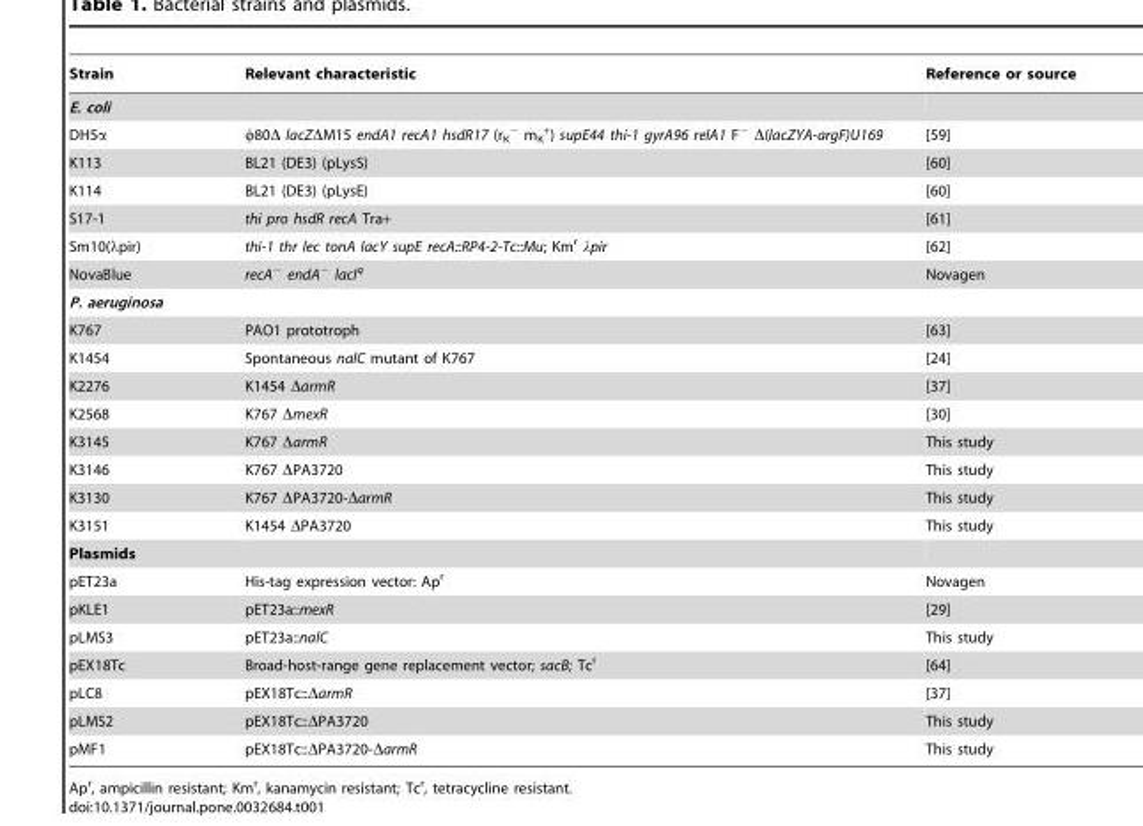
<table><thead><tr><td>Strain</td><td>Relevant characteristic</td><td>Reference or source</td></tr></thead><tbody><tr><td colspan="3">E. coli</td></tr><tr><td>DH5α</td><td>φ80Δ lacZΔM15 endA1 recA1 hsdR17 (r<sub>K</sub> <sup>−</sup> m<sub>K</sub> <sup>+</sup>) supE44 thi-1 gyrA96 relA1 F<sup>−</sup> Δ(lacZYA-argF)U169</td><td>[59]</td></tr><tr><td>K113</td><td>BL21 (DE3) (pLysS)</td><td>[60]</td></tr><tr><td>K114</td><td>BL21 (DE3) (pLysE)</td><td>[60]</td></tr><tr><td>S17-1</td><td>thi pro hsdR recA Tra+</td><td>[61]</td></tr><tr><td>Sm10(λpir)</td><td>thi-1 thr lec tonA lacY supE recA::RP4-2-Tc::Mu; Km<sup>r</sup> λpir</td><td>[62]</td></tr><tr><td>NovaBlue</td><td>recA<sup>−</sup> endA<sup>−</sup> lacI<sup>q</sup></td><td>Novagen</td></tr><tr><td colspan="3">P. aeruginosa</td></tr><tr><td>K767</td><td>PAO1 prototroph</td><td>[63]</td></tr><tr><td>K1454</td><td>Spontaneous nalC mutant of K767</td><td>[24]</td></tr><tr><td>K2276</td><td>K1454 ΔarmR</td><td>[37]</td></tr><tr><td>K2568</td><td>K767 ΔmexR</td><td>[30]</td></tr><tr><td>K3145</td><td>K767 ΔarmR</td><td>This study</td></tr><tr><td>K3146</td><td>K767 ΔPA3720</td><td>This study</td></tr><tr><td>K3130</td><td>K767 ΔPA3720-ΔarmR</td><td>This study</td></tr><tr><td>K3151</td><td>K1454 ΔPA3720</td><td>This study</td></tr><tr><td colspan="3">Plasmids</td></tr><tr><td>pET23a</td><td>His-tag expression vector: Ap<sup>r</sup></td><td>Novagen</td></tr><tr><td>pKLE1</td><td>pET23a::mexR</td><td>[29]</td></tr><tr><td>pLMS3</td><td>pET23a::nalC</td><td>This study</td></tr><tr><td>pEX18Tc</td><td>Broad-host-range gene replacement vector; sacB; Tc<sup>r</sup></td><td>[64]</td></tr><tr><td>pLC8</td><td>pEX18Tc::ΔarmR</td><td>[37]</td></tr><tr><td>pLMS2</td><td>pEX18Tc::ΔPA3720</td><td>This study</td></tr><tr><td>pMF1</td><td>pEX18Tc::ΔPA3720-ΔarmR</td><td>This study</td></tr></tbody></table>